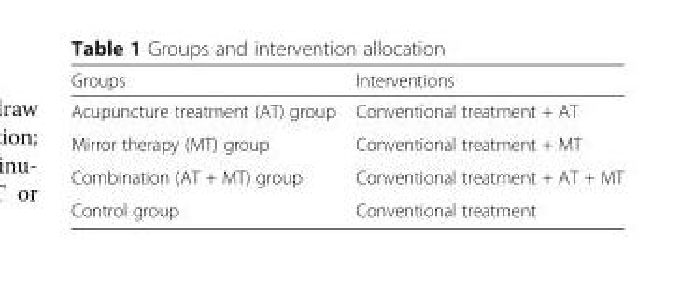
<table><thead><tr><td>Groups</td><td>Interventions</td></tr></thead><tbody><tr><td>Acupuncture treatment (AT) group</td><td>Conventional treatment + AT</td></tr><tr><td>Mirror therapy (MT) group</td><td>Conventional treatment + MT</td></tr><tr><td>Combination (AT + MT) group</td><td>Conventional treatment + AT + MT</td></tr><tr><td>Control group</td><td>Conventional treatment</td></tr></tbody></table>